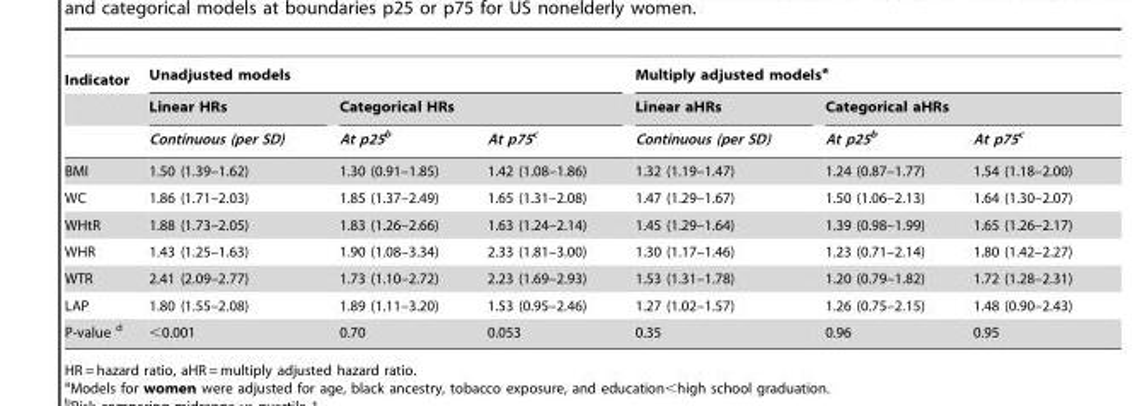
<table><thead><tr><td rowspan="3">Indicator</td><td colspan="3">Unadjusted models</td><td colspan="3">Multiply adjusted models<sup>a</sup></td></tr><tr><td rowspan="2">Linear HRs Continuous (per SD)</td><td colspan="2">Categorical HRs</td><td rowspan="2">Linear aHRs Continuous (per SD)</td><td colspan="2">Categorical aHRs</td></tr><tr><td>At p25b</td><td>At p75c</td><td>At p25b</td><td>At p75c</td></tr></thead><tbody><tr><td>BMI</td><td>1.50 (1.39–1.62)</td><td>1.30 (0.91–1.85)</td><td>1.42 (1.08–1.86)</td><td>1.32 (1.19–1.47)</td><td>1.24 (0.87–1.77)</td><td>1.54 (1.18–2.00)</td></tr><tr><td>WC</td><td>1.86 (1.71–2.03)</td><td>1.85 (1.37–2.49)</td><td>1.65 (1.31–2.08)</td><td>1.47 (1.29–1.67)</td><td>1.50 (1.06–2.13)</td><td>1.64 (1.30–2.07)</td></tr><tr><td>WHtR</td><td>1.88 (1.73–2.05)</td><td>1.83 (1.26–2.66)</td><td>1.63 (1.24–2.14)</td><td>1.45 (1.29–1.64)</td><td>1.39 (0.98–1.99)</td><td>1.65 (1.26–2.17)</td></tr><tr><td>WHR</td><td>1.43 (1.25–1.63)</td><td>1.90 (1.08–3.34)</td><td>2.33 (1.81–3.00)</td><td>1.30 (1.17–1.46)</td><td>1.23 (0.71–2.14)</td><td>1.80 (1.42–2.27)</td></tr><tr><td>WTR</td><td>2.41 (2.09–2.77)</td><td>1.73 (1.10–2.72)</td><td>2.23 (1.69–2.93)</td><td>1.53 (1.31–1.78)</td><td>1.20 (0.79–1.82)</td><td>1.72 (1.28–2.31)</td></tr><tr><td>LAP</td><td>1.80 (1.55–2.08)</td><td>1.89 (1.11–3.20)</td><td>1.53 (0.95–2.46)</td><td>1.27 (1.02–1.57)</td><td>1.26 (0.75–2.15)</td><td>1.48 (0.90–2.43)</td></tr><tr><td>P-value d</td><td>&lt;0.001</td><td>0.70</td><td>0.053</td><td>0.35</td><td>0.96</td><td>0.95</td></tr></tbody></table>